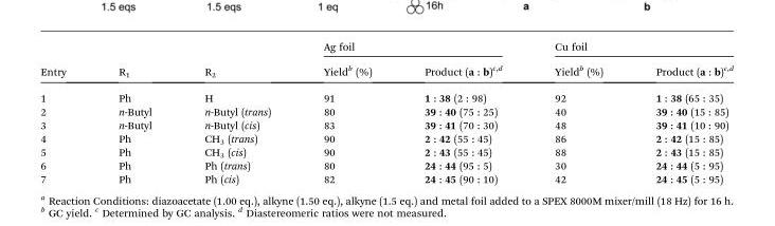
<table><thead><tr><td rowspan="2">Entry</td><td rowspan="2">R<sub>1</sub></td><td rowspan="2">R<sub>2</sub></td><td colspan="2">Ag foil</td><td colspan="2">Cu foil</td></tr><tr><td>Yield<sup>b</sup> (%)</td><td>Product (a : b)<sup>c,d</sup></td><td>Yield<sup>b</sup> (%)</td><td>Product (a : b)<sup>c,d</sup></td></tr></thead><tbody><tr><td>1</td><td>Ph</td><td>H</td><td>91</td><td>1 : 38 (2 : 98)</td><td>92</td><td>1 : 38 (65 : 35)</td></tr><tr><td>2</td><td>n-Butyl</td><td>n-Butyl (trans)</td><td>80</td><td>39 : 40 (75 : 25)</td><td>40</td><td>39 : 40 (15 : 85)</td></tr><tr><td>3</td><td>n-Butyl</td><td>n-Butyl (cis)</td><td>83</td><td>39 : 41 (70 : 30)</td><td>48</td><td>39 : 41 (10 : 90)</td></tr><tr><td>4</td><td>Ph</td><td>CH<sub>3</sub> (trans)</td><td>90</td><td>2 : 42 (55 : 45)</td><td>86</td><td>2 : 42 (15 : 85)</td></tr><tr><td>5</td><td>Ph</td><td>CH<sub>3</sub> (cis)</td><td>90</td><td>2 : 43 (55 : 45)</td><td>88</td><td>2 : 43 (15 : 85)</td></tr><tr><td>6</td><td>Ph</td><td>Ph (trans)</td><td>80</td><td>24 : 44 (95 : 5)</td><td>30</td><td>24 : 44 (5 : 95)</td></tr><tr><td>7</td><td>Ph</td><td>Ph (cis)</td><td>82</td><td>24 : 45 (90 : 10)</td><td>42</td><td>24 : 45 (5 : 95)</td></tr></tbody></table>